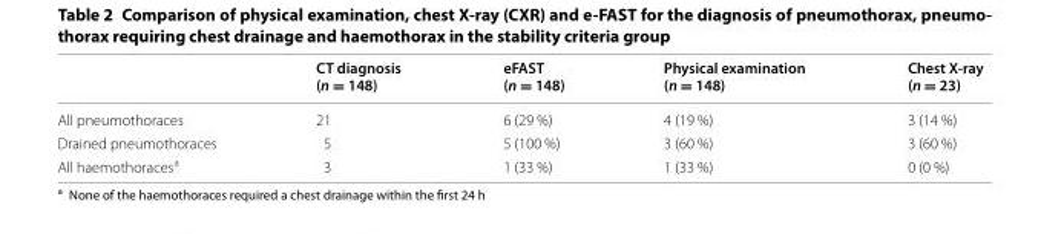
<table><thead><tr><td></td><td>CT diagnosis (n = 148)</td><td>eFAST (n = 148)</td><td>Physical examination (n = 148)</td><td>Chest X‑ray (n = 23)</td></tr></thead><tbody><tr><td>All pneumothoraces</td><td>21</td><td>6 (29 %)</td><td>4 (19 %)</td><td>3 (14 %)</td></tr><tr><td>Drained pneumothoraces</td><td>5</td><td>5 (100 %)</td><td>3 (60 %)</td><td>3 (60 %)</td></tr><tr><td>All haemothoraces<sup>a</sup></td><td>3</td><td>1 (33 %)</td><td>1 (33 %)</td><td>0 (0 %)</td></tr></tbody></table>